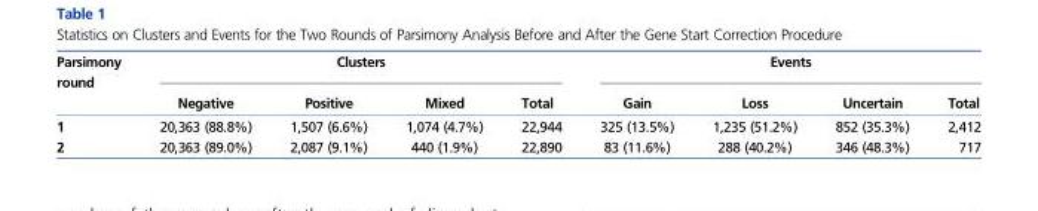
<table><thead><tr><td rowspan="2">Parsimony round</td><td colspan="4">Clusters</td><td colspan="4">Events</td></tr><tr><td>Negative</td><td>Positive</td><td>Mixed</td><td>Total</td><td>Gain</td><td>Loss</td><td>Uncertain</td><td>Total</td></tr></thead><tbody><tr><td>1</td><td>20,363 (88.8%)</td><td>1,507 (6.6%)</td><td>1,074 (4.7%)</td><td>22,944</td><td>325 (13.5%)</td><td>1,235 (51.2%)</td><td>852 (35.3%)</td><td>2,412</td></tr><tr><td>2</td><td>20,363 (89.0%)</td><td>2,087 (9.1%)</td><td>440 (1.9%)</td><td>22,890</td><td>83 (11.6%)</td><td>288 (40.2%)</td><td>346 (48.3%)</td><td>717</td></tr></tbody></table>